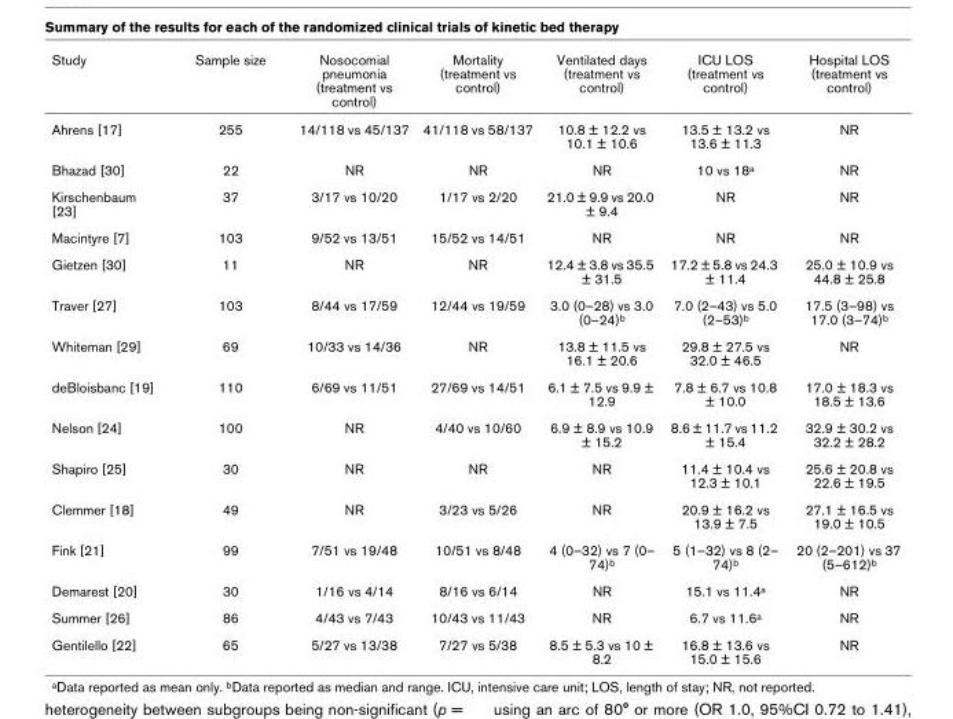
<table><thead><tr><td>Study</td><td>Sample size</td><td>Nosocomial pneumonia (treatment vs control)</td><td>Mortality (treatment vs control)</td><td>Ventilated days (treatment vs control)</td><td>ICU LOS (treatment vs control)</td><td>Hospital LOS (treatment vs control)</td></tr></thead><tbody><tr><td>Ahrens [17]</td><td>255</td><td>14/118 vs 45/137</td><td>41/118 vs 58/137</td><td>10.8 ± 12.2 vs 10.1 ± 10.6</td><td>13.5 ± 13.2 vs 13.6 ± 11.3</td><td>NR</td></tr><tr><td>Bhazad [30]</td><td>22</td><td>NR</td><td>NR</td><td>NR</td><td>10 vs 18a</td><td>NR</td></tr><tr><td>Kirschenbaum [23]</td><td>37</td><td>3/17 vs 10/20</td><td>1/17 vs 2/20</td><td>21.0 ± 9.9 vs 20.0 ± 9.4</td><td>NR</td><td>NR</td></tr><tr><td>Macintyre [7]</td><td>103</td><td>9/52 vs 13/51</td><td>15/52 vs 14/51</td><td>NR</td><td>NR</td><td>NR</td></tr><tr><td>Gietzen [30]</td><td>11</td><td>NR</td><td>NR</td><td>12.4 ± 3.8 vs 35.5 ± 31.5</td><td>17.2 ± 5.8 vs 24.3 ± 11.4</td><td>25.0 ± 10.9 vs 44.8 ± 25.8</td></tr><tr><td>Traver [27]</td><td>103</td><td>8/44 vs 17/59</td><td>12/44 vs 19/59</td><td>3.0 (0–28) vs 3.0 (0–24)b</td><td>7.0 (2–43) vs 5.0 (2–53)b</td><td>17.5 (3–98) vs 17.0 (3–74)b</td></tr><tr><td>Whiteman [29]</td><td>69</td><td>10/33 vs 14/36</td><td>NR</td><td>13.8 ± 11.5 vs 16.1 ± 20.6</td><td>29.8 ± 27.5 vs 32.0 ± 46.5</td><td>NR</td></tr><tr><td>deBloisbanc [19]</td><td>110</td><td>6/69 vs 11/51</td><td>27/69 vs 14/51</td><td>6.1 ± 7.5 vs 9.9 ± 12.9</td><td>7.8 ± 6.7 vs 10.8 ± 10.0</td><td>17.0 ± 18.3 vs 18.5 ± 13.6</td></tr><tr><td>Nelson [24]</td><td>100</td><td>NR</td><td>4/40 vs 10/60</td><td>6.9 ± 8.9 vs 10.9 ± 15.2</td><td>8.6 ± 11.7 vs 11.2 ± 15.4</td><td>32.9 ± 30.2 vs 32.2 ± 28.2</td></tr><tr><td>Shapiro [25]</td><td>30</td><td>NR</td><td>NR</td><td>NR</td><td>11.4 ± 10.4 vs 12.3 ± 10.1</td><td>25.6 ± 20.8 vs 22.6 ± 19.5</td></tr><tr><td>Clemmer [18]</td><td>49</td><td>NR</td><td>3/23 vs 5/26</td><td>NR</td><td>20.9 ± 16.2 vs 13.9 ± 7.5</td><td>27.1 ± 16.5 vs 19.0 ± 10.5</td></tr><tr><td>Fink [21]</td><td>99</td><td>7/51 vs 19/48</td><td>10/51 vs 8/48</td><td>4 (0–32) vs 7 (0– 74)b</td><td>5 (1–32) vs 8 (2– 74)b</td><td>20 (2–201) vs 37 (5–612)b</td></tr><tr><td>Demarest [20]</td><td>30</td><td>1/16 vs 4/14</td><td>8/16 vs 6/14</td><td>NR</td><td>15.1 vs 11.4a</td><td>NR</td></tr><tr><td>Summer [26]</td><td>86</td><td>4/43 vs 7/43</td><td>10/43 vs 11/43</td><td>NR</td><td>6.7 vs 11.6a</td><td>NR</td></tr><tr><td>Gentilello [22]</td><td>65</td><td>5/27 vs 13/38</td><td>7/27 vs 5/38</td><td>8.5 ± 5.3 vs 10 ± 8.2</td><td>16.8 ± 13.6 vs 15.0 ± 15.6</td><td>NR</td></tr></tbody></table>